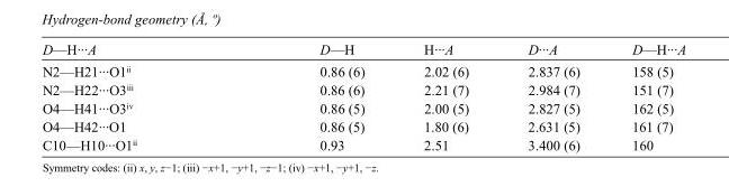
<table><tbody><tr><td>D—H···A</td><td>D—H</td><td>H···A</td><td>D···A</td><td>D—H···A</td></tr><tr><td>N2—H21···O1<sup>ii</sup></td><td>0.86 (6)</td><td>2.02 (6)</td><td>2.837 (6)</td><td>158 (5)</td></tr><tr><td>N2—H22···O3<sup>iii</sup></td><td>0.86 (6)</td><td>2.21 (7)</td><td>2.984 (7)</td><td>151 (7)</td></tr><tr><td>O4—H41···O3<sup>iv</sup></td><td>0.86 (5)</td><td>2.00 (5)</td><td>2.827 (5)</td><td>162 (5)</td></tr><tr><td>O4—H42···O1</td><td>0.86 (5)</td><td>1.80 (6)</td><td>2.631 (5)</td><td>161 (7)</td></tr><tr><td>C10—H10···O1<sup>ii</sup></td><td>0.93</td><td>2.51</td><td>3.400 (6)</td><td>160</td></tr></tbody></table>